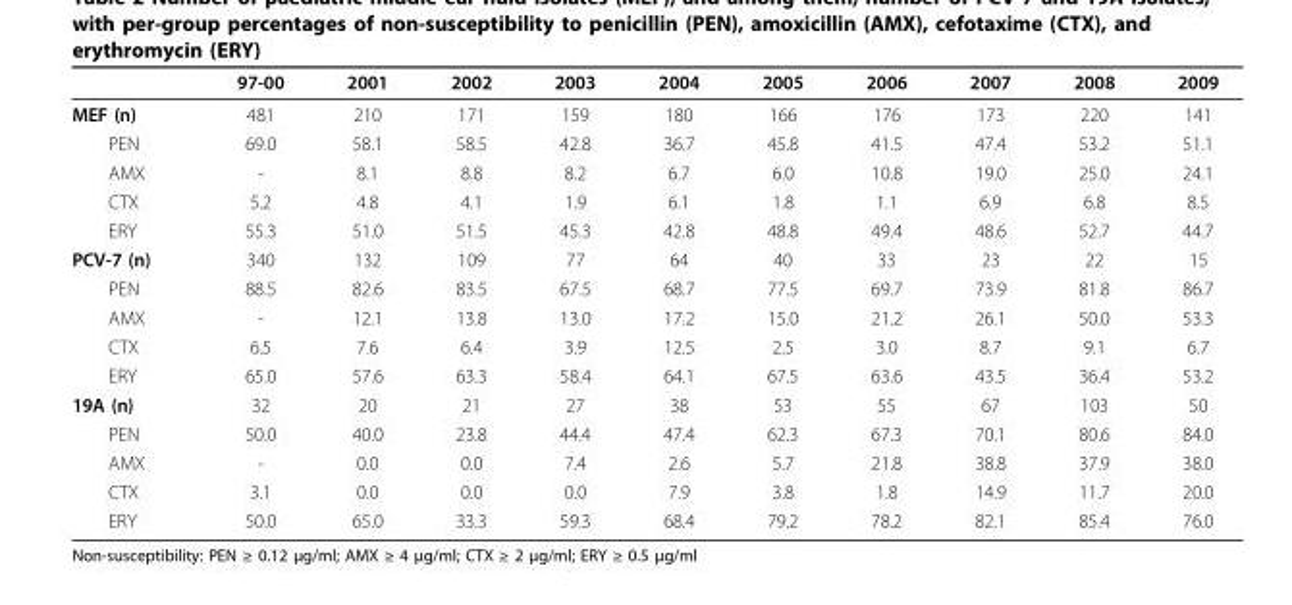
<table><thead><tr><td></td><td>97-00</td><td>2001</td><td>2002</td><td>2003</td><td>2004</td><td>2005</td><td>2006</td><td>2007</td><td>2008</td><td>2009</td></tr></thead><tbody><tr><td>MEF (n)</td><td>481</td><td>210</td><td>171</td><td>159</td><td>180</td><td>166</td><td>176</td><td>173</td><td>220</td><td>141</td></tr><tr><td>PEN</td><td>69.0</td><td>58.1</td><td>58.5</td><td>42.8</td><td>36.7</td><td>45.8</td><td>41.5</td><td>47.4</td><td>53.2</td><td>51.1</td></tr><tr><td>AMX</td><td>-</td><td>8.1</td><td>8.8</td><td>8.2</td><td>6.7</td><td>6.0</td><td>10.8</td><td>19.0</td><td>25.0</td><td>24.1</td></tr><tr><td>CTX</td><td>5.2</td><td>4.8</td><td>4.1</td><td>1.9</td><td>6.1</td><td>1.8</td><td>1.1</td><td>6.9</td><td>6.8</td><td>8.5</td></tr><tr><td>ERY</td><td>55.3</td><td>51.0</td><td>51.5</td><td>45.3</td><td>42.8</td><td>48.8</td><td>49.4</td><td>48.6</td><td>52.7</td><td>44.7</td></tr><tr><td>PCV-7 (n)</td><td>340</td><td>132</td><td>109</td><td>77</td><td>64</td><td>40</td><td>33</td><td>23</td><td>22</td><td>15</td></tr><tr><td>PEN</td><td>88.5</td><td>82.6</td><td>83.5</td><td>67.5</td><td>68.7</td><td>77.5</td><td>69.7</td><td>73.9</td><td>81.8</td><td>86.7</td></tr><tr><td>AMX</td><td>-</td><td>12.1</td><td>13.8</td><td>13.0</td><td>17.2</td><td>15.0</td><td>21.2</td><td>26.1</td><td>50.0</td><td>53.3</td></tr><tr><td>CTX</td><td>6.5</td><td>7.6</td><td>6.4</td><td>3.9</td><td>12.5</td><td>2.5</td><td>3.0</td><td>8.7</td><td>9.1</td><td>6.7</td></tr><tr><td>ERY</td><td>65.0</td><td>57.6</td><td>63.3</td><td>58.4</td><td>64.1</td><td>67.5</td><td>63.6</td><td>43.5</td><td>36.4</td><td>53.2</td></tr><tr><td>19A (n)</td><td>32</td><td>20</td><td>21</td><td>27</td><td>38</td><td>53</td><td>55</td><td>67</td><td>103</td><td>50</td></tr><tr><td>PEN</td><td>50.0</td><td>40.0</td><td>23.8</td><td>44.4</td><td>47.4</td><td>62.3</td><td>67.3</td><td>70.1</td><td>80.6</td><td>84.0</td></tr><tr><td>AMX</td><td>-</td><td>0.0</td><td>0.0</td><td>7.4</td><td>2.6</td><td>5.7</td><td>21.8</td><td>38.8</td><td>37.9</td><td>38.0</td></tr><tr><td>CTX</td><td>3.1</td><td>0.0</td><td>0.0</td><td>0.0</td><td>7.9</td><td>3.8</td><td>1.8</td><td>14.9</td><td>11.7</td><td>20.0</td></tr><tr><td>ERY</td><td>50.0</td><td>65.0</td><td>33.3</td><td>59.3</td><td>68.4</td><td>79.2</td><td>78.2</td><td>82.1</td><td>85.4</td><td>76.0</td></tr></tbody></table>